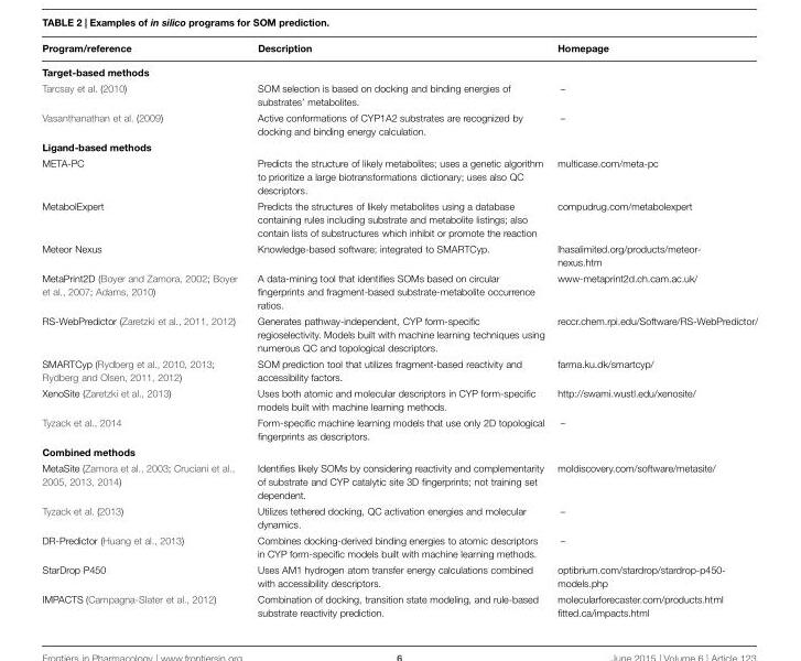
<table><thead><tr><td>Program/reference</td><td>Description</td><td>Homepage</td></tr></thead><tbody><tr><td colspan="3">Target-based methods</td></tr><tr><td>Tarcsay et al. (2010)</td><td>SOM selection is based on docking and binding energies of substrates’ metabolites.</td><td>–</td></tr><tr><td>Vasanthanathan et al. (2009)</td><td>Active conformations of CYP1A2 substrates are recognized by docking and binding energy calculation.</td><td>–</td></tr><tr><td colspan="3">Ligand-based methods</td></tr><tr><td>META-PC</td><td>Predicts the structure of likely metabolites; uses a genetic algorithm to prioritize a large biotransformations dictionary; uses also QC descriptors.</td><td>multicase.com/meta-pc</td></tr><tr><td>MetabolExpert</td><td>Predicts the structures of likely metabolites using a database containing rules including substrate and metabolite listings; also contain lists of substructures which inhibit or promote the reaction</td><td>compudrug.com/metabolexpert</td></tr><tr><td>Meteor Nexus</td><td>Knowledge-based software; integrated to SMARTCyp.</td><td>lhasalimited.org/products/meteor- nexus.htm</td></tr><tr><td>MetaPrint2D (Boyer and Zamora, 2002; Boyer et al., 2007; Adams, 2010)</td><td>A data-mining tool that identifies SOMs based on circular fingerprints and fragment-based substrate-metabolite occurrence ratios.</td><td>www-metaprint2d.ch.cam.ac.uk/</td></tr><tr><td>RS-WebPredictor (Zaretzki et al., 2011, 2012)</td><td>Generates pathway-independent, CYP form-specific regioselectivity. Models built with machine learning techniques using numerous QC and topological descriptors.</td><td>reccr.chem.rpi.edu/Software/RS-WebPredictor/</td></tr><tr><td>SMARTCyp (Rydberg et al., 2010, 2013; Rydberg and Olsen, 2011, 2012)</td><td>SOM prediction tool that utilizes fragment-based reactivity and accessibility factors.</td><td>farma.ku.dk/smartcyp/</td></tr><tr><td>XenoSite (Zaretzki et al., 2013)</td><td>Uses both atomic and molecular descriptors in CYP form-specific models built with machine learning methods.</td><td>http://swami.wustl.edu/xenosite/</td></tr><tr><td>Tyzack et al., 2014</td><td>Form-specific machine learning models that use only 2D topological fingerprints as descriptors.</td><td>–</td></tr><tr><td colspan="3">Combined methods</td></tr><tr><td>MetaSite (Zamora et al., 2003; Cruciani et al., 2005, 2013, 2014)</td><td>Identifies likely SOMs by considering reactivity and complementarity of substrate and CYP catalytic site 3D fingerprints; not training set dependent.</td><td>moldiscovery.com/software/metasite/</td></tr><tr><td>Tyzack et al. (2013)</td><td>Utilizes tethered docking, QC activation energies and molecular dynamics.</td><td>–</td></tr><tr><td>DR-Predictor (Huang et al., 2013)</td><td>Combines docking-derived binding energies to atomic descriptors in CYP form-specific models built with machine learning methods.</td><td>–</td></tr><tr><td>StarDrop P450</td><td>Uses AM1 hydrogen atom transfer energy calculations combined with accessibility descriptors.</td><td>optibrium.com/stardrop/stardrop-p450- models.php</td></tr><tr><td>IMPACTS (Campagna-Slater et al., 2012)</td><td>Combination of docking, transition state modeling, and rule-based substrate reactivity prediction.</td><td>molecularforecaster.com/products.html fitted.ca/impacts.html</td></tr></tbody></table>